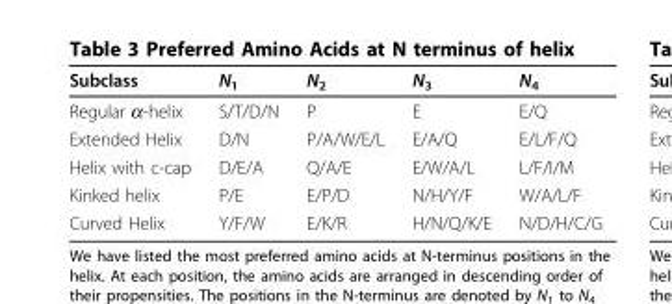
<table><thead><tr><td>Subclass</td><td>N<sub>1</sub></td><td>N<sub>2</sub></td><td>N<sub>3</sub></td><td>N<sub>4</sub></td></tr></thead><tbody><tr><td>Regular α-helix</td><td>S/T/D/N</td><td>P</td><td>E</td><td>E/Q</td></tr><tr><td>Extended Helix</td><td>D/N</td><td>P/A/W/E/L</td><td>E/A/Q</td><td>E/L/F/Q</td></tr><tr><td>Helix with c-cap</td><td>D/E/A</td><td>Q/A/E</td><td>E/W/A/L</td><td>L/F/I/M</td></tr><tr><td>Kinked helix</td><td>P/E</td><td>E/P/D</td><td>N/H/Y/F</td><td>W/A/L/F</td></tr><tr><td>Curved Helix</td><td>Y/F/W</td><td>E/K/R</td><td>H/N/Q/K/E</td><td>N/D/H/C/G</td></tr></tbody></table>